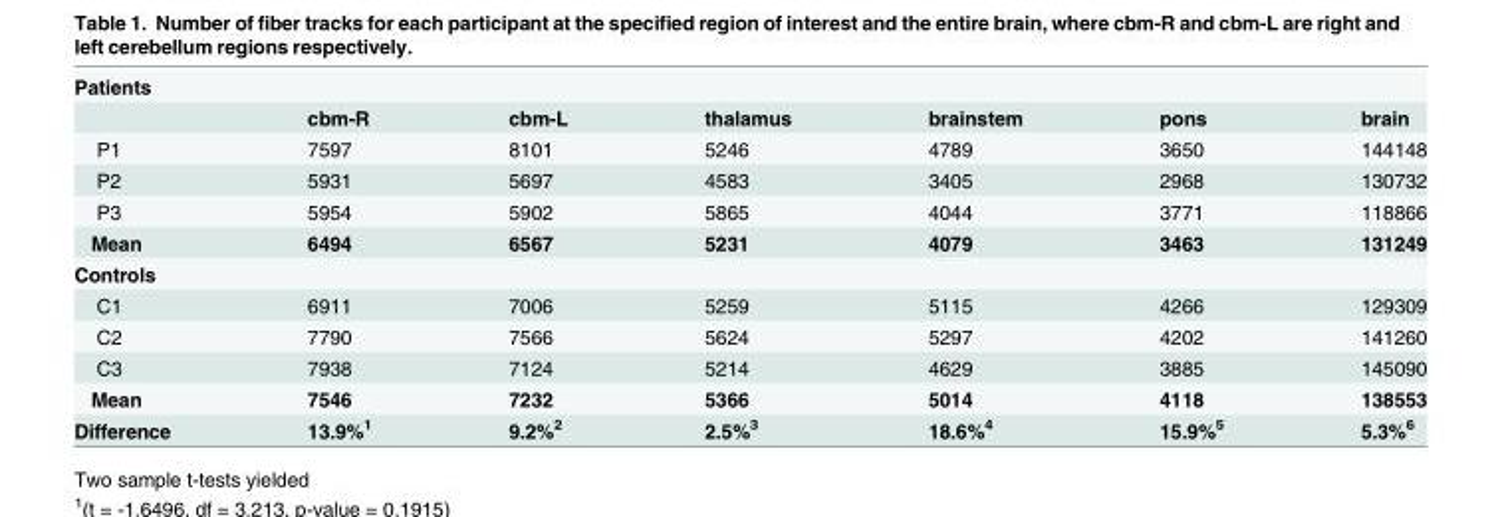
<table><tbody><tr><td colspan="7">Patients</td></tr><tr><td></td><td>cbm-R</td><td>cbm-L</td><td>thalamus</td><td>brainstem</td><td>pons</td><td>brain</td></tr><tr><td>P1</td><td>7597</td><td>8101</td><td>5246</td><td>4789</td><td>3650</td><td>144148</td></tr><tr><td>P2</td><td>5931</td><td>5697</td><td>4583</td><td>3405</td><td>2968</td><td>130732</td></tr><tr><td>P3</td><td>5954</td><td>5902</td><td>5865</td><td>4044</td><td>3771</td><td>118866</td></tr><tr><td>Mean</td><td>6494</td><td>6567</td><td>5231</td><td>4079</td><td>3463</td><td>131249</td></tr><tr><td colspan="7">Controls</td></tr><tr><td>C1</td><td>6911</td><td>7006</td><td>5259</td><td>5115</td><td>4266</td><td>129309</td></tr><tr><td>C2</td><td>7790</td><td>7566</td><td>5624</td><td>5297</td><td>4202</td><td>141260</td></tr><tr><td>C3</td><td>7938</td><td>7124</td><td>5214</td><td>4629</td><td>3885</td><td>145090</td></tr><tr><td>Mean</td><td>7546</td><td>7232</td><td>5366</td><td>5014</td><td>4118</td><td>138553</td></tr><tr><td>Difference</td><td>13.9%<sup>1</sup></td><td>9.2%<sup>2</sup></td><td>2.5%<sup>3</sup></td><td>18.6%<sup>4</sup></td><td>15.9%<sup>5</sup></td><td>5.3%<sup>6</sup></td></tr></tbody></table>